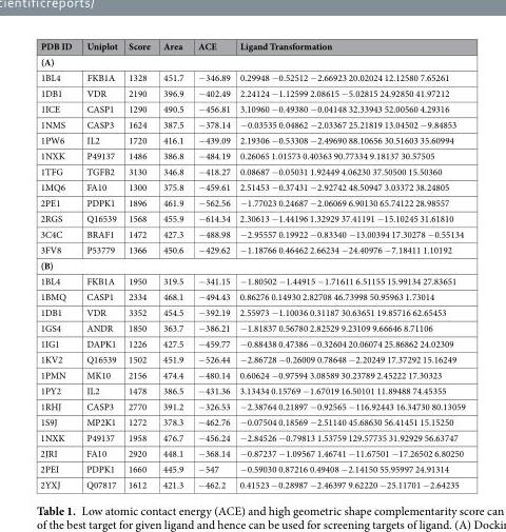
<table><thead><tr><td>PDB ID</td><td>Uniplot</td><td>Score</td><td>Area</td><td>ACE</td><td>Ligand Transformation</td></tr></thead><tbody><tr><td colspan="6">(A)</td></tr><tr><td>1BL4</td><td>FKB1A</td><td>1328</td><td>451.7</td><td>−346.89</td><td>0.29948 −0.52512 −2.66923 20.02024 12.12580 7.65261</td></tr><tr><td>1DB1</td><td>VDR</td><td>2190</td><td>396.9</td><td>−402.49</td><td>2.24124 −1.12599 2.08615 −5.02815 24.92850 41.97212</td></tr><tr><td>1ICE</td><td>CASP1</td><td>1290</td><td>490.5</td><td>−456.81</td><td>3.10960 −0.49380 −0.04148 32.33943 52.00560 4.29316</td></tr><tr><td>1NMS</td><td>CASP3</td><td>1624</td><td>387.5</td><td>−378.14</td><td>−0.03535 0.04862 −2.03367 25.21819 13.04502 −9.84853</td></tr><tr><td>1PW6</td><td>IL2</td><td>1720</td><td>416.1</td><td>−439.09</td><td>2.19306 −0.53308 −2.49690 88.10656 30.51603 35.60994</td></tr><tr><td>1NXK</td><td>P49137</td><td>1486</td><td>386.8</td><td>−484.19</td><td>0.26065 1.01573 0.40363 90.77334 9.18137 30.57505</td></tr><tr><td>1TFG</td><td>TGFB2</td><td>3130</td><td>346.8</td><td>−418.27</td><td>0.08687 −0.05031 1.92449 4.06230 37.50500 15.50360</td></tr><tr><td>1MQ6</td><td>FA10</td><td>1300</td><td>375.8</td><td>−459.61</td><td>2.51453 −0.37431 −2.92742 48.50947 3.03372 38.24805</td></tr><tr><td>2PE1</td><td>PDPK1</td><td>1896</td><td>461.9</td><td>−562.56</td><td>−1.77023 0.24687 −2.06069 6.90130 65.74122 28.98557</td></tr><tr><td>2RGS</td><td>Q16539</td><td>1568</td><td>455.9</td><td>−614.34</td><td>2.30613 −1.44196 1.32929 37.41191 −15.10245 31.61810</td></tr><tr><td>3C4C</td><td>BRAF1</td><td>1472</td><td>427.3</td><td>−488.98</td><td>−2.95557 0.19922 −0.83340 −13.00394 17.30278 −0.55134</td></tr><tr><td>3FV8</td><td>P53779</td><td>1366</td><td>450.6</td><td>−429.62</td><td>−1.18766 0.46462 2.66234 −24.40976 −7.18411 1.10192</td></tr><tr><td colspan="6">(B)</td></tr><tr><td>1BL4</td><td>FKB1A</td><td>1950</td><td>319.5</td><td>−341.15</td><td>−1.80502 −1.44915 −1.71611 6.51155 15.99134 27.83651</td></tr><tr><td>1BMQ</td><td>CASP1</td><td>2334</td><td>468.1</td><td>−494.43</td><td>0.86276 0.14930 2.82708 46.73998 50.95963 1.73014</td></tr><tr><td>1DB1</td><td>VDR</td><td>3352</td><td>454.5</td><td>−392.19</td><td>2.55973 −1.10036 0.31187 30.63651 19.85716 62.65453</td></tr><tr><td>1GS4</td><td>ANDR</td><td>1850</td><td>363.7</td><td>−386.21</td><td>−1.81837 0.56780 2.82529 9.23109 9.66646 8.71106</td></tr><tr><td>1IG1</td><td>DAPK1</td><td>1226</td><td>427.5</td><td>−459.77</td><td>−0.88438 0.47386 −0.32604 20.06074 25.86862 24.02309</td></tr><tr><td>1KV2</td><td>Q16539</td><td>1502</td><td>451.9</td><td>−526.44</td><td>−2.86728 −0.26009 0.78648 −2.20249 17.37292 15.16249</td></tr><tr><td>1PMN</td><td>MK10</td><td>2156</td><td>474.4</td><td>−480.14</td><td>0.60624 −0.97594 3.08589 30.23789 2.45222 17.30323</td></tr><tr><td>1PY2</td><td>IL2</td><td>1478</td><td>386.5</td><td>−431.36</td><td>3.13434 0.15769 −1.67019 16.50101 11.89488 74.45355</td></tr><tr><td>1RHJ</td><td>CASP3</td><td>2770</td><td>391.2</td><td>−326.53</td><td>−2.38764 0.21897 −0.92565 −116.92443 16.34730 80.13059</td></tr><tr><td>1S9J</td><td>MP2K1</td><td>1272</td><td>378.3</td><td>−462.76</td><td>−0.07504 0.18569 −2.51140 45.68630 56.41451 15.15250</td></tr><tr><td>1NXK</td><td>P49137</td><td>1958</td><td>476.7</td><td>−456.24</td><td>−2.84526 −0.79813 1.53759 129.57735 31.92929 56.63747</td></tr><tr><td>2JRI</td><td>FA10</td><td>2920</td><td>448.1</td><td>−368.14</td><td>−0.87237 −1.09567 1.46741 −11.67501 −17.26502 6.80250</td></tr><tr><td>2PEI</td><td>PDPK1</td><td>1660</td><td>445.9</td><td>−547</td><td>−0.59030 0.87216 0.49408 −2.14150 55.95997 24.91314</td></tr><tr><td>2YXJ</td><td>Q07817</td><td>1612</td><td>421.3</td><td>−462.2</td><td>0.41523 −0.28987 −2.46397 9.62220 −25.11701 −2.64235</td></tr></tbody></table>